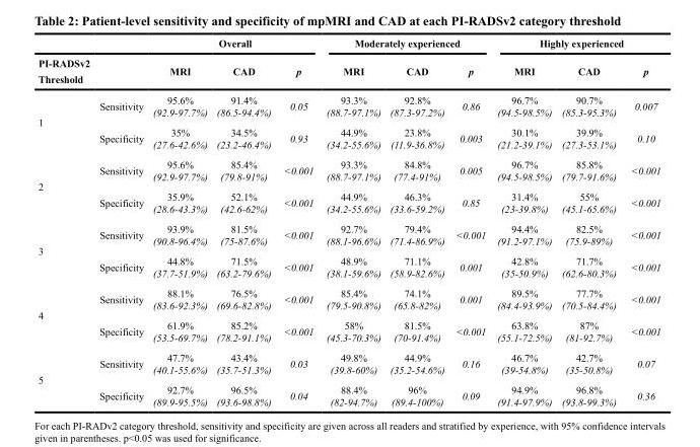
<table><thead><tr><td rowspan="2">PI-RADSv2 Threshold</td><td rowspan="2"></td><td colspan="3">Overall</td><td colspan="3">Moderately experienced</td><td colspan="3">Highly experienced</td></tr><tr><td>MRI</td><td>CAD</td><td>p</td><td>MRI</td><td>CAD</td><td>p</td><td>MRI</td><td>CAD</td><td>p</td></tr></thead><tbody><tr><td rowspan="2">1</td><td>Sensitivity</td><td>95.6% (92.9-97.7%)</td><td>91.4% (86.5-94.4%)</td><td>0.05</td><td>93.3% (88.7-97.1%)</td><td>92.8% (87.3-97.2%)</td><td>0.86</td><td>96.7% (94.5-98.5%)</td><td>90.7% (85.3-95.3%)</td><td>0.007</td></tr><tr><td>Specificity</td><td>35% (27.6-42.6%)</td><td>34.5% (23.2-46.4%)</td><td>0.93</td><td>44.9% (34.2-55.6%)</td><td>23.8% (11.9-36.8%)</td><td>0.003</td><td>30.1% (21.2-39.1%)</td><td>39.9% (27.3-53.1%)</td><td>0.10</td></tr><tr><td rowspan="2">2</td><td>Sensitivity</td><td>95.6% (92.9-97.7%)</td><td>85.4% (79.8-91%)</td><td>&lt;0.001</td><td>93.3% (88.7-97.1%)</td><td>84.8% (77.4-91%)</td><td>0.005</td><td>96.7% (94.5-98.5%)</td><td>85.8% (79.7-91.6%)</td><td>&lt;0.001</td></tr><tr><td>Specificity</td><td>35.9% (28.6-43.3%)</td><td>52.1% (42.6-62%)</td><td>&lt;0.001</td><td>44.9% (34.2-55.6%)</td><td>46.3% (33.6-59.2%)</td><td>0.85</td><td>31.4% (23-39.8%)</td><td>55% (45.1-65.6%)</td><td>&lt;0.001</td></tr><tr><td rowspan="2">3</td><td>Sensitivity</td><td>93.9% (90.8-96.4%)</td><td>81.5% (75-87.6%)</td><td>&lt;0.001</td><td>92.7% (88.1-96.6%)</td><td>79.4% (71.4-86.9%)</td><td>&lt;0.001</td><td>94.4% (91.2-97.1%)</td><td>82.5% (75.9-89%)</td><td>&lt;0.001</td></tr><tr><td>Specificity</td><td>44.8% (37.7-51.9%)</td><td>71.5% (63.2-79.6%)</td><td>&lt;0.001</td><td>48.9% (38.1-59.6%)</td><td>71.1% (58.9-82.6%)</td><td>0.001</td><td>42.8% (35-50.9%)</td><td>71.7% (62.6-80.3%)</td><td>&lt;0.001</td></tr><tr><td rowspan="2">4</td><td>Sensitivity</td><td>88.1% (83.6-92.3%)</td><td>76.5% (69.6-82.8%)</td><td>&lt;0.001</td><td>85.4% (79.5-90.8%)</td><td>74.1% (65.8-82%)</td><td>0.001</td><td>89.5% (84.4-93.9%)</td><td>77.7% (70.5-84.4%)</td><td>&lt;0.001</td></tr><tr><td>Specificity</td><td>61.9% (53.5-69.7%)</td><td>85.2% (78.2-91.1%)</td><td>&lt;0.001</td><td>58% (45.3-70.3%)</td><td>81.5% (70-91.4%)</td><td>&lt;0.001</td><td>63.8% (55.1-72.5%)</td><td>87% (81-92.7%)</td><td>&lt;0.001</td></tr><tr><td rowspan="2">5</td><td>Sensitivity</td><td>47.7% (40.1-55.6%)</td><td>43.4% (35.7-51.3%)</td><td>0.03</td><td>49.8% (39.8-60%)</td><td>44.9% (35.2-54.6%)</td><td>0.16</td><td>46.7% (39-54.8%)</td><td>42.7% (35-50.8%)</td><td>0.07</td></tr><tr><td>Specificity</td><td>92.7% (89.9-95.5%)</td><td>96.5% (93.6-98.8%)</td><td>0.04</td><td>88.4% (82-94.7%)</td><td>96% (89.4-100%)</td><td>0.09</td><td>94.9% (91.4-97.9%)</td><td>96.8% (93.8-99.3%)</td><td>0.36</td></tr></tbody></table>